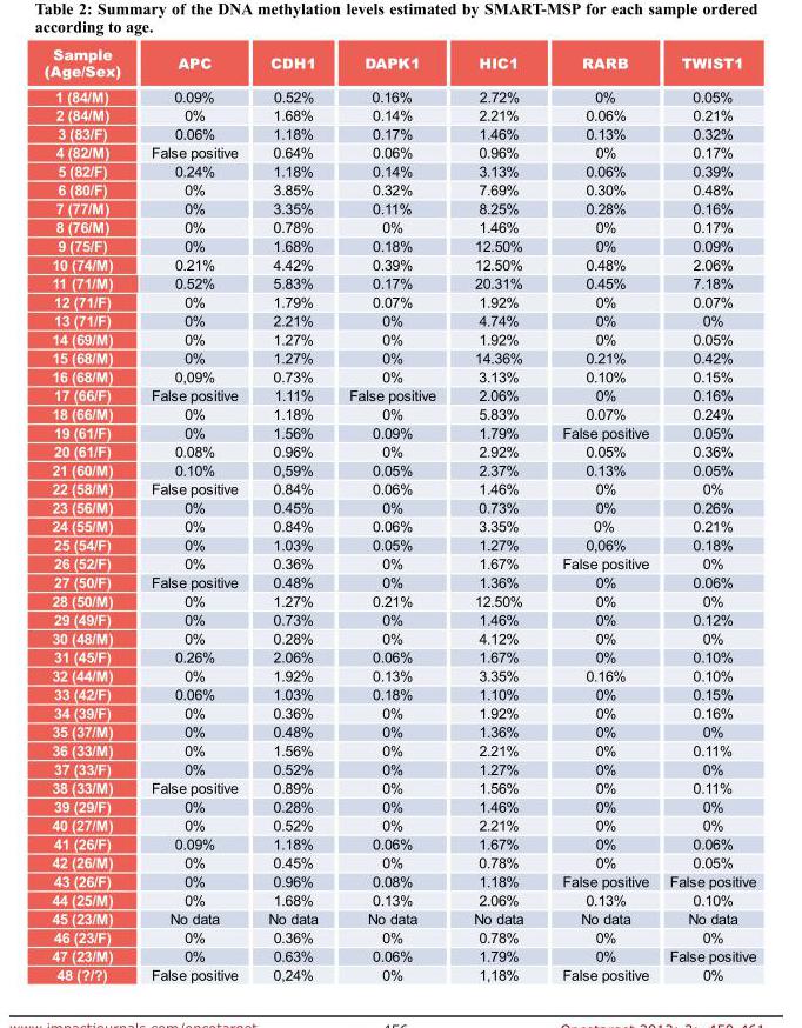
<table><thead><tr><td>Sample (Age/Sex)</td><td>APC</td><td>CDH1</td><td>DAPK1</td><td>HIC1</td><td>RARB</td><td>TWIST1</td></tr></thead><tbody><tr><td>1 (84/M)</td><td>0.09%</td><td>0.52%</td><td>0.16%</td><td>2.72%</td><td>0%</td><td>0.05%</td></tr><tr><td>2 (84/M)</td><td>0%</td><td>1.68%</td><td>0.14%</td><td>2.21%</td><td>0.06%</td><td>0.21%</td></tr><tr><td>3 (83/F)</td><td>0.06%</td><td>1.18%</td><td>0.17%</td><td>1.46%</td><td>0.13%</td><td>0.32%</td></tr><tr><td>4 (82/M)</td><td>False positive</td><td>0.64%</td><td>0.06%</td><td>0.96%</td><td>0%</td><td>0.17%</td></tr><tr><td>5 (82/F)</td><td>0.24%</td><td>1.18%</td><td>0.14%</td><td>3.13%</td><td>0.06%</td><td>0.39%</td></tr><tr><td>6 (80/F)</td><td>0%</td><td>3.85%</td><td>0.32%</td><td>7.69%</td><td>0.30%</td><td>0.48%</td></tr><tr><td>7 (77/M)</td><td>0%</td><td>3.35%</td><td>0.11%</td><td>8.25%</td><td>0.28%</td><td>0.16%</td></tr><tr><td>8 (76/M)</td><td>0%</td><td>0.78%</td><td>0%</td><td>1.46%</td><td>0%</td><td>0.17%</td></tr><tr><td>9 (75/F)</td><td>0%</td><td>1.68%</td><td>0.18%</td><td>12.50%</td><td>0%</td><td>0.09%</td></tr><tr><td>10 (74/M)</td><td>0.21%</td><td>4.42%</td><td>0.39%</td><td>12.50%</td><td>0.48%</td><td>2.06%</td></tr><tr><td>11 (71/M)</td><td>0.52%</td><td>5.83%</td><td>0.17%</td><td>20.31%</td><td>0.45%</td><td>7.18%</td></tr><tr><td>12 (71/F)</td><td>0%</td><td>1.79%</td><td>0.07%</td><td>1.92%</td><td>0%</td><td>0.07%</td></tr><tr><td>13 (71/F)</td><td>0%</td><td>2.21%</td><td>0%</td><td>4.74%</td><td>0%</td><td>0%</td></tr><tr><td>14 (69/M)</td><td>0%</td><td>1.27%</td><td>0%</td><td>1.92%</td><td>0%</td><td>0.05%</td></tr><tr><td>15 (68/M)</td><td>0%</td><td>1.27%</td><td>0%</td><td>14.36%</td><td>0.21%</td><td>0.42%</td></tr><tr><td>16 (68/M)</td><td>0,09%</td><td>0.73%</td><td>0%</td><td>3.13%</td><td>0.10%</td><td>0.15%</td></tr><tr><td>17 (66/F)</td><td>False positive</td><td>1.11%</td><td>False positive</td><td>2.06%</td><td>0%</td><td>0.16%</td></tr><tr><td>18 (66/M)</td><td>0%</td><td>1.18%</td><td>0%</td><td>5.83%</td><td>0.07%</td><td>0.24%</td></tr><tr><td>19 (61/F)</td><td>0%</td><td>1.56%</td><td>0.09%</td><td>1.79%</td><td>False positive</td><td>0.05%</td></tr><tr><td>20 (61/F)</td><td>0.08%</td><td>0.96%</td><td>0%</td><td>2.92%</td><td>0.05%</td><td>0.36%</td></tr><tr><td>21 (60/M)</td><td>0.10%</td><td>0,59%</td><td>0.05%</td><td>2.37%</td><td>0.13%</td><td>0.05%</td></tr><tr><td>22 (58/M)</td><td>False positive</td><td>0.84%</td><td>0.06%</td><td>1.46%</td><td>0%</td><td>0%</td></tr><tr><td>23 (56/M)</td><td>0%</td><td>0.45%</td><td>0%</td><td>0.73%</td><td>0%</td><td>0.26%</td></tr><tr><td>24 (55/M)</td><td>0%</td><td>0.84%</td><td>0.06%</td><td>3.35%</td><td>0%</td><td>0.21%</td></tr><tr><td>25 (54/F)</td><td>0%</td><td>1.03%</td><td>0.05%</td><td>1.27%</td><td>0,06%</td><td>0.18%</td></tr><tr><td>26 (52/F)</td><td>0%</td><td>0.36%</td><td>0%</td><td>1.67%</td><td>False positive</td><td>0%</td></tr><tr><td>27 (50/F)</td><td>False positive</td><td>0.48%</td><td>0%</td><td>1.36%</td><td>0%</td><td>0.06%</td></tr><tr><td>28 (50/M)</td><td>0%</td><td>1.27%</td><td>0.21%</td><td>12.50%</td><td>0%</td><td>0%</td></tr><tr><td>29 (49/F)</td><td>0%</td><td>0.73%</td><td>0%</td><td>1.46%</td><td>0%</td><td>0.12%</td></tr><tr><td>30 (48/M)</td><td>0%</td><td>0.28%</td><td>0%</td><td>4.12%</td><td>0%</td><td>0%</td></tr><tr><td>31 (45/F)</td><td>0.26%</td><td>2.06%</td><td>0.06%</td><td>1.67%</td><td>0%</td><td>0.10%</td></tr><tr><td>32 (44/M)</td><td>0%</td><td>1.92%</td><td>0.13%</td><td>3.35%</td><td>0.16%</td><td>0.10%</td></tr><tr><td>33 (42/F)</td><td>0.06%</td><td>1.03%</td><td>0.18%</td><td>1.10%</td><td>0%</td><td>0.15%</td></tr><tr><td>34 (39/F)</td><td>0%</td><td>0.36%</td><td>0%</td><td>1.92%</td><td>0%</td><td>0.16%</td></tr><tr><td>35 (37/M)</td><td>0%</td><td>0.48%</td><td>0%</td><td>1.36%</td><td>0%</td><td>0%</td></tr><tr><td>36 (33/M)</td><td>0%</td><td>1.56%</td><td>0%</td><td>2.21%</td><td>0%</td><td>0.11%</td></tr><tr><td>37 (33/F)</td><td>0%</td><td>0.52%</td><td>0%</td><td>1.27%</td><td>0%</td><td>0%</td></tr><tr><td>38 (33/M)</td><td>False positive</td><td>0.89%</td><td>0%</td><td>1.56%</td><td>0%</td><td>0.11%</td></tr><tr><td>39 (29/F)</td><td>0%</td><td>0.28%</td><td>0%</td><td>1.46%</td><td>0%</td><td>0%</td></tr><tr><td>40 (27/M)</td><td>0%</td><td>0.52%</td><td>0%</td><td>2.21%</td><td>0%</td><td>0%</td></tr><tr><td>41 (26/F)</td><td>0.09%</td><td>1.18%</td><td>0.06%</td><td>1.67%</td><td>0%</td><td>0.06%</td></tr><tr><td>42 (26/M)</td><td>0%</td><td>0.45%</td><td>0%</td><td>0.78%</td><td>0%</td><td>0.05%</td></tr><tr><td>43 (26/F)</td><td>0%</td><td>0.96%</td><td>0.08%</td><td>1.18%</td><td>False positive</td><td>False positive</td></tr><tr><td>44 (25/M)</td><td>0%</td><td>1.68%</td><td>0.13%</td><td>2.06%</td><td>0.13%</td><td>0.10%</td></tr><tr><td>45 (23/M)</td><td>No data</td><td>No data</td><td>No data</td><td>No data</td><td>No data</td><td>No data</td></tr><tr><td>46 (23/F)</td><td>0%</td><td>0.36%</td><td>0%</td><td>0.78%</td><td>0%</td><td>0%</td></tr><tr><td>47 (23/M)</td><td>0%</td><td>0.63%</td><td>0.06%</td><td>1.79%</td><td>0%</td><td>False positive</td></tr><tr><td>48 (?/?)</td><td>False positive</td><td>0,24%</td><td>0%</td><td>1,18%</td><td>False positive</td><td>0%</td></tr></tbody></table>